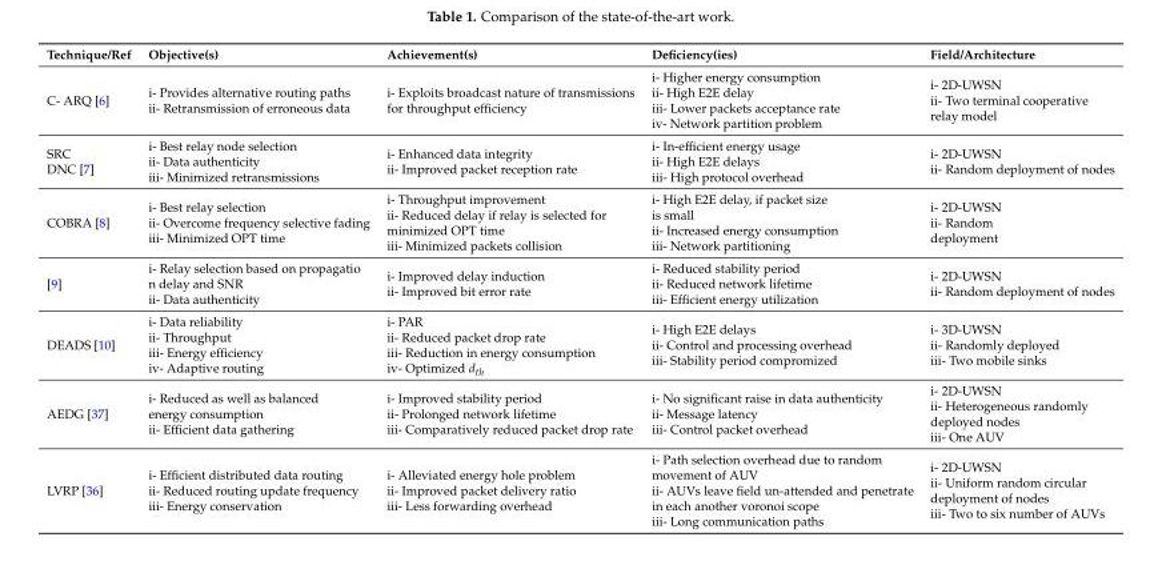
<table><thead><tr><td>Technique/Ref</td><td>Objective(s)</td><td>Achievement(s)</td><td>Deficiency(ies)</td><td>Field/Architecture</td></tr></thead><tbody><tr><td>C- ARQ [6]</td><td>i- Provides alternative routing paths ii- Retransmission of erroneous data</td><td>i- Exploits broadcast nature of transmissions for throughput efficiency</td><td>i- Higher energy consumption ii- High E2E delay iii- Lower packets acceptance rate iv- Network partition problem</td><td>i- 2D-UWSN ii- Two terminal cooperative relay model</td></tr><tr><td>SRC DNC [7]</td><td>i- Best relay node selection ii- Data authenticity iii- Minimized retransmissions</td><td>i- Enhanced data integrity ii- Improved packet reception rate</td><td>i- In-efficient energy usage ii- High E2E delays iii- High protocol overhead</td><td>i- 2D-UWSN ii- Random deployment of nodes</td></tr><tr><td>COBRA [8]</td><td>i- Best relay selection ii- Overcome frequency selective fading iii- Minimized OPT time</td><td>i- Throughput improvement ii- Reduced delay if relay is selected for minimized OPT time iii- Minimized packets collision</td><td>i- High E2E delay, if packet size is small ii- Increased energy consumption iii- Network partitioning</td><td>i- 2D-UWSN ii- Random deployment</td></tr><tr><td>[9]</td><td>i- Relay selection based on propagatio n delay and SNR ii- Data authenticity</td><td>i- Improved delay induction ii- Improved bit error rate</td><td>i- Reduced stability period ii- Reduced network lifetime iii- Efficient energy utilization</td><td>i- 2D-UWSN ii- Random deployment of nodes</td></tr><tr><td>DEADS [10]</td><td>i- Data reliability ii- Throughput iii- Energy efficiency iv- Adaptive routing</td><td>i- PAR ii- Reduced packet drop rate iii- Reduction in energy consumption iv- Optimized d<sub>th</sub></td><td>i- High E2E delays ii- Control and processing overhead iii- Stability period compromized</td><td>i- 3D-UWSN ii- Randomly deployed iii- Two mobile sinks</td></tr><tr><td>AEDG [37]</td><td>i- Reduced as well as balanced energy consumption ii- Efficient data gathering</td><td>i- Improved stability period ii- Prolonged network lifetime iii- Comparatively reduced packet drop rate</td><td>i- No significant raise in data authenticity ii- Message latency iii- Control packet overhead</td><td>i- 2D-UWSN ii- Heterogeneous randomly deployed nodes iii- One AUV</td></tr><tr><td>LVRP [36]</td><td>i- Efficient distributed data routing ii- Reduced routing update frequency iii- Energy conservation</td><td>i- Alleviated energy hole problem ii- Improved packet delivery ratio iii- Less forwarding overhead</td><td>i- Path selection overhead due to random movement of AUV ii- AUVs leave field un-attended and penetrate in each another voronoi scope iii- Long communication paths</td><td>i- 2D-UWSN ii- Uniform random circular deployment of nodes iii- Two to six number of AUVs</td></tr></tbody></table>